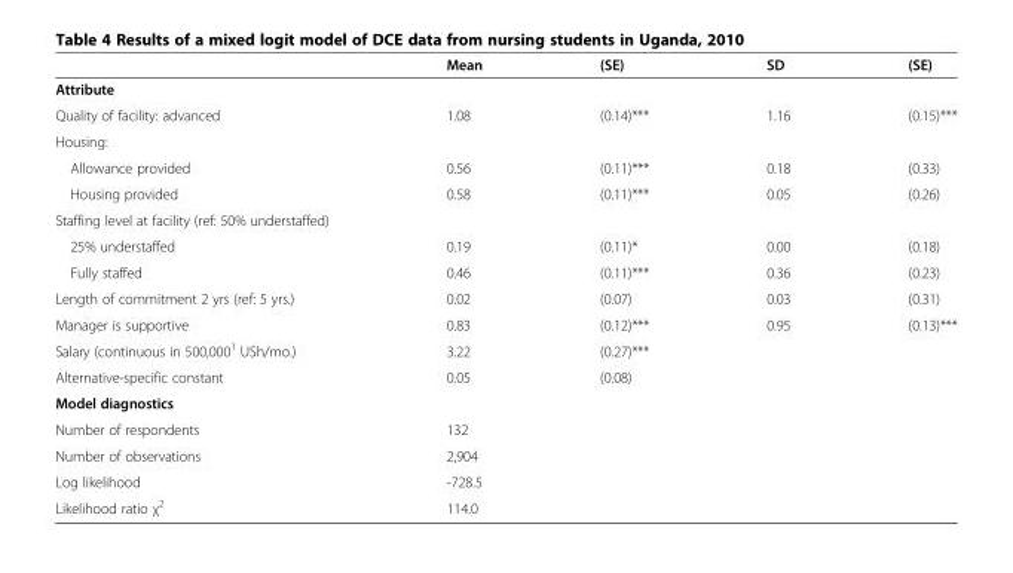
<table><thead><tr><td></td><td>Mean</td><td>(SE)</td><td>SD</td><td>(SE)</td></tr></thead><tbody><tr><td colspan="5">Attribute</td></tr><tr><td>Quality of facility: advanced</td><td>1.08</td><td>(0.14)***</td><td>1.16</td><td>(0.15)***</td></tr><tr><td colspan="5">Housing:</td></tr><tr><td>Allowance provided</td><td>0.56</td><td>(0.11)***</td><td>0.18</td><td>(0.33)</td></tr><tr><td>Housing provided</td><td>0.58</td><td>(0.11)***</td><td>0.05</td><td>(0.26)</td></tr><tr><td colspan="5">Staffing level at facility (ref: 50% understaffed)</td></tr><tr><td>25% understaffed</td><td>0.19</td><td>(0.11)*</td><td>0.00</td><td>(0.18)</td></tr><tr><td>Fully staffed</td><td>0.46</td><td>(0.11)***</td><td>0.36</td><td>(0.23)</td></tr><tr><td>Length of commitment 2 yrs (ref: 5 yrs.)</td><td>0.02</td><td>(0.07)</td><td>0.03</td><td>(0.31)</td></tr><tr><td>Manager is supportive</td><td>0.83</td><td>(0.12)***</td><td>0.95</td><td>(0.13)***</td></tr><tr><td>Salary (continuous in 500,000<sup>1</sup> USh/mo.)</td><td>3.22</td><td>(0.27)***</td><td></td><td></td></tr><tr><td>Alternative-specific constant</td><td>0.05</td><td>(0.08)</td><td></td><td></td></tr><tr><td colspan="5">Model diagnostics</td></tr><tr><td>Number of respondents</td><td>132</td><td></td><td></td><td></td></tr><tr><td>Number of observations</td><td>2,904</td><td></td><td></td><td></td></tr><tr><td>Log likelihood</td><td>-728.5</td><td></td><td></td><td></td></tr><tr><td>Likelihood ratio χ<sup>2</sup></td><td>114.0</td><td></td><td></td><td></td></tr></tbody></table>